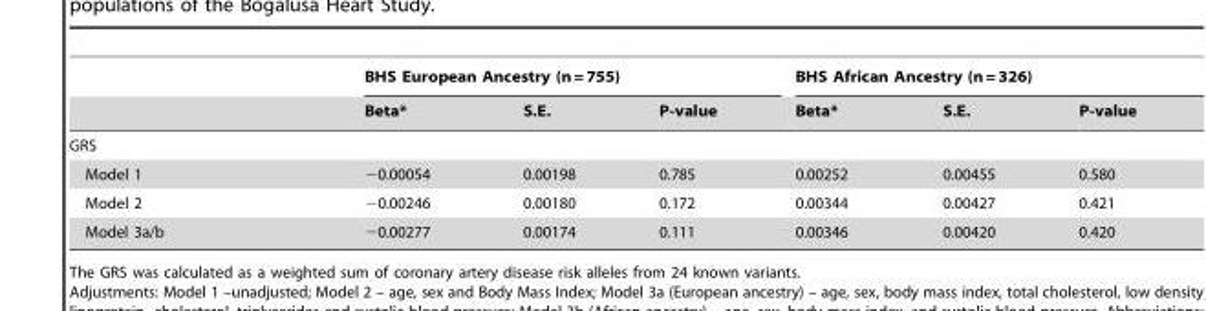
<table><thead><tr><td rowspan="2"></td><td colspan="3">BHS European Ancestry (n = 755)</td><td colspan="3">BHS African Ancestry (n = 326)</td></tr><tr><td>Beta*</td><td>S.E.</td><td>P-value</td><td>Beta*</td><td>S.E.</td><td>P-value</td></tr></thead><tbody><tr><td colspan="7">GRS</td></tr><tr><td>Model 1</td><td>−0.00054</td><td>0.00198</td><td>0.785</td><td>0.00252</td><td>0.00455</td><td>0.580</td></tr><tr><td>Model 2</td><td>−0.00246</td><td>0.00180</td><td>0.172</td><td>0.00344</td><td>0.00427</td><td>0.421</td></tr><tr><td>Model 3a/b</td><td>−0.00277</td><td>0.00174</td><td>0.111</td><td>0.00346</td><td>0.00420</td><td>0.420</td></tr></tbody></table>